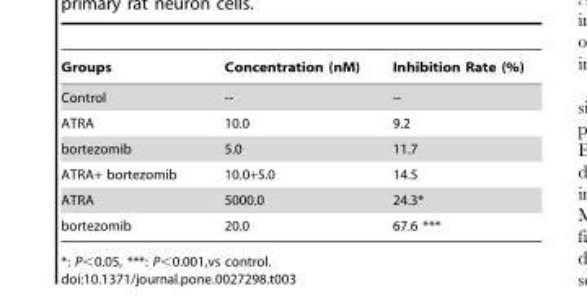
<table><thead><tr><td>Groups</td><td>Concentration (nM)</td><td>Inhibition Rate (%)</td></tr></thead><tbody><tr><td>Control</td><td>--</td><td>--</td></tr><tr><td>ATRA</td><td>10.0</td><td>9.2</td></tr><tr><td>bortezomib</td><td>5.0</td><td>11.7</td></tr><tr><td>ATRA+ bortezomib</td><td>10.0+5.0</td><td>14.5</td></tr><tr><td>ATRA</td><td>5000.0</td><td>24.3*</td></tr><tr><td>bortezomib</td><td>20.0</td><td>67.6 ***</td></tr></tbody></table>